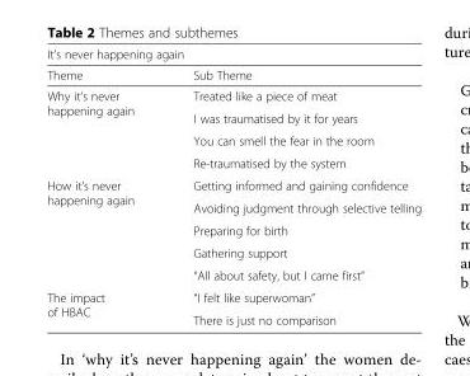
<table><thead><tr><td colspan="2">It’s never happening again</td></tr><tr><td>Theme</td><td>Sub Theme</td></tr></thead><tbody><tr><td rowspan="4">Why it’s never happening again</td><td>Treated like a piece of meat</td></tr><tr><td>I was traumatised by it for years</td></tr><tr><td>You can smell the fear in the room</td></tr><tr><td>Re-traumatised by the system</td></tr><tr><td rowspan="5">How it’s never happening again</td><td>Getting informed and gaining confidence</td></tr><tr><td>Avoiding judgment through selective telling</td></tr><tr><td>Preparing for birth</td></tr><tr><td>Gathering support</td></tr><tr><td>“All about safety, but I came first”</td></tr><tr><td rowspan="2">The impact of HBAC</td><td>“I felt like superwoman”</td></tr><tr><td>There is just no comparison</td></tr></tbody></table>